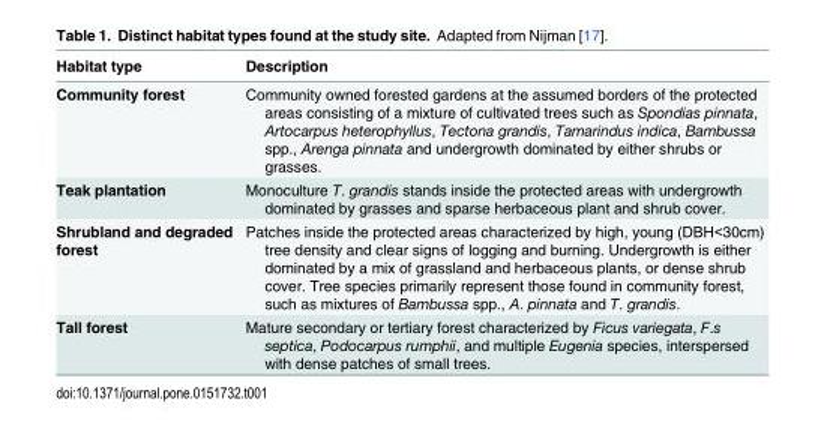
<table><thead><tr><td>Habitat type</td><td>Description</td></tr></thead><tbody><tr><td>Community forest</td><td>Community owned forested gardens at the assumed borders of the protected areas consisting of a mixture of cultivated trees such as Spondias pinnata, Artocarpus heterophyllus, Tectona grandis, Tamarindus indica, Bambussa spp., Arenga pinnata and undergrowth dominated by either shrubs or grasses.</td></tr><tr><td>Teak plantation</td><td>Monoculture T. grandis stands inside the protected areas with undergrowth dominated by grasses and sparse herbaceous plant and shrub cover.</td></tr><tr><td>Shrubland and degraded forest</td><td>Patches inside the protected areas characterized by high, young (DBH&lt;30cm) tree density and clear signs of logging and burning. Undergrowth is either dominated by a mix of grassland and herbaceous plants, or dense shrub cover. Tree species primarily represent those found in community forest, such as mixtures of Bambussa spp., A. pinnata and T. grandis.</td></tr><tr><td>Tall forest</td><td>Mature secondary or tertiary forest characterized by Ficus variegata, F.s septica, Podocarpus rumphii, and multiple Eugenia species, interspersed with dense patches of small trees.</td></tr></tbody></table>